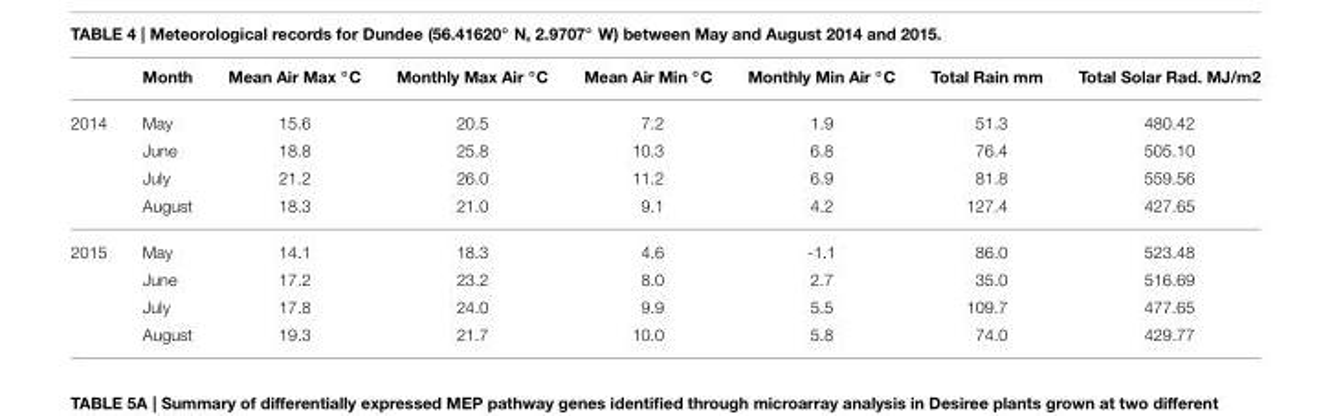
<table><thead><tr><td></td><td>Month</td><td>Mean Air Max ◦C</td><td>Monthly Max Air ◦C</td><td>Mean Air Min ◦C</td><td>Monthly Min Air ◦C</td><td>Total Rain mm</td><td>Total Solar Rad. MJ/m2</td></tr></thead><tbody><tr><td rowspan="4">2014</td><td>May</td><td>15.6</td><td>20.5</td><td>7.2</td><td>1.9</td><td>51.3</td><td>480.42</td></tr><tr><td>June</td><td>18.8</td><td>25.8</td><td>10.3</td><td>6.8</td><td>76.4</td><td>505.10</td></tr><tr><td>July</td><td>21.2</td><td>26.0</td><td>11.2</td><td>6.9</td><td>81.8</td><td>559.56</td></tr><tr><td>August</td><td>18.3</td><td>21.0</td><td>9.1</td><td>4.2</td><td>127.4</td><td>427.65</td></tr><tr><td rowspan="4">2015</td><td>May</td><td>14.1</td><td>18.3</td><td>4.6</td><td>-1.1</td><td>86.0</td><td>523.48</td></tr><tr><td>June</td><td>17.2</td><td>23.2</td><td>8.0</td><td>2.7</td><td>35.0</td><td>516.69</td></tr><tr><td>July</td><td>17.8</td><td>24.0</td><td>9.9</td><td>5.5</td><td>109.7</td><td>477.65</td></tr><tr><td>August</td><td>19.3</td><td>21.7</td><td>10.0</td><td>5.8</td><td>74.0</td><td>429.77</td></tr></tbody></table>